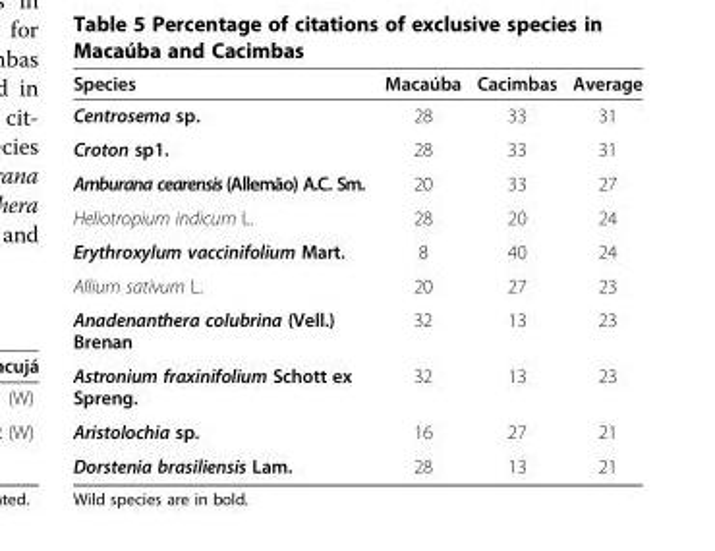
<table><thead><tr><td>Species</td><td>Macaúba</td><td>Cacimbas</td><td>Average</td></tr></thead><tbody><tr><td>Centrosema sp.</td><td>28</td><td>33</td><td>31</td></tr><tr><td>Croton sp1.</td><td>28</td><td>33</td><td>31</td></tr><tr><td>Amburana cearensis(Allemão) A.C. Sm.</td><td>20</td><td>33</td><td>27</td></tr><tr><td>Heliotropium indicum L.</td><td>28</td><td>20</td><td>24</td></tr><tr><td>Erythroxylum vaccinifolium Mart.</td><td>8</td><td>40</td><td>24</td></tr><tr><td>Allium sativum L.</td><td>20</td><td>27</td><td>23</td></tr><tr><td>Anadenanthera colubrina (Vell.) Brenan</td><td>32</td><td>13</td><td>23</td></tr><tr><td>Astronium fraxinifolium Schott ex Spreng.</td><td>32</td><td>13</td><td>23</td></tr><tr><td>Aristolochia sp.</td><td>16</td><td>27</td><td>21</td></tr><tr><td>Dorstenia brasiliensis Lam.</td><td>28</td><td>13</td><td>21</td></tr></tbody></table>